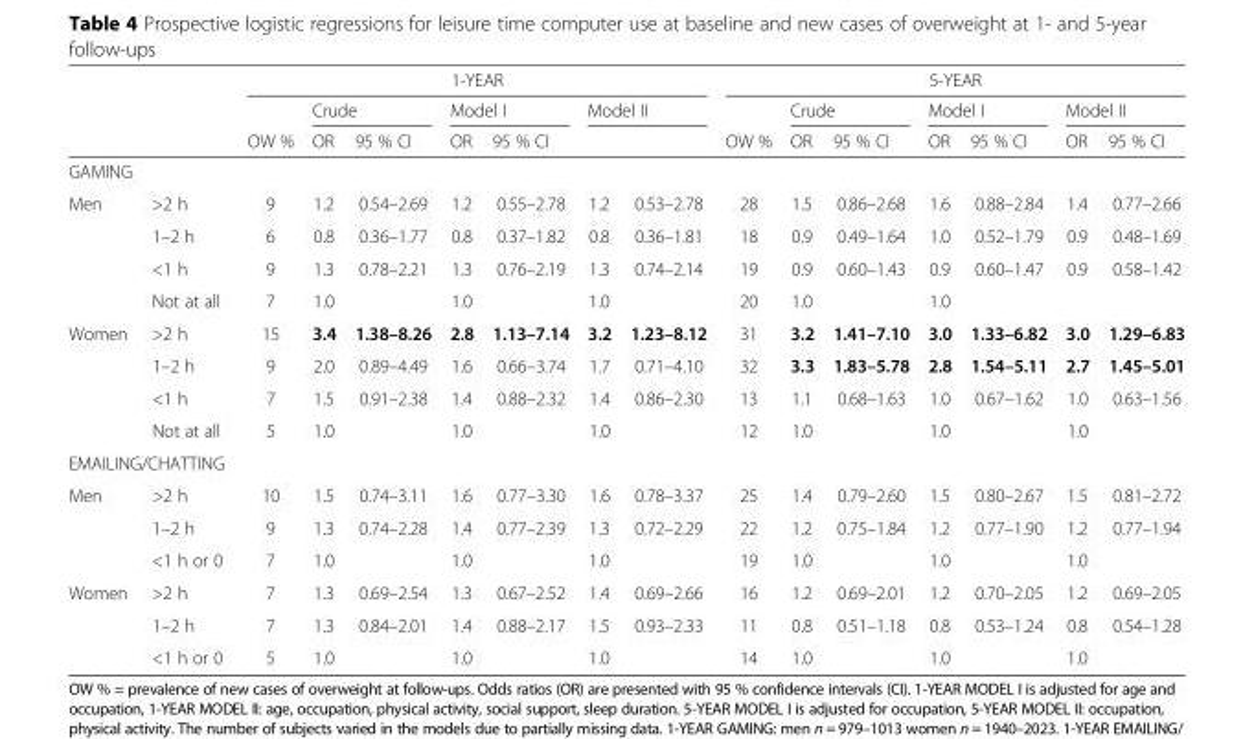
<table><thead><tr><td rowspan="3"></td><td rowspan="3"></td><td colspan="7">1-YEAR</td><td colspan="7">5-YEAR</td></tr><tr><td rowspan="2">OW %</td><td colspan="2">Crude</td><td colspan="2">Model I</td><td colspan="2">Model II</td><td rowspan="2">OW %</td><td colspan="2">Crude</td><td colspan="2">Model I</td><td colspan="2">Model II</td></tr><tr><td>OR</td><td>95 % CI</td><td>OR</td><td>95 % CI</td><td></td><td></td><td>OR</td><td>95 % CI</td><td>OR</td><td>95 % CI</td><td>OR</td><td>95 % CI</td></tr></thead><tbody><tr><td colspan="16">GAMING</td></tr><tr><td rowspan="4">Men</td><td>&gt;2 h</td><td>9</td><td>1.2</td><td>0.54–2.69</td><td>1.2</td><td>0.55–2.78</td><td>1.2</td><td>0.53–2.78</td><td>28</td><td>1.5</td><td>0.86–2.68</td><td>1.6</td><td>0.88–2.84</td><td>1.4</td><td>0.77–2.66</td></tr><tr><td>1–2 h</td><td>6</td><td>0.8</td><td>0.36–1.77</td><td>0.8</td><td>0.37–1.82</td><td>0.8</td><td>0.36–1.81</td><td>18</td><td>0.9</td><td>0.49–1.64</td><td>1.0</td><td>0.52–1.79</td><td>0.9</td><td>0.48–1.69</td></tr><tr><td>&lt;1 h</td><td>9</td><td>1.3</td><td>0.78–2.21</td><td>1.3</td><td>0.76–2.19</td><td>1.3</td><td>0.74–2.14</td><td>19</td><td>0.9</td><td>0.60–1.43</td><td>0.9</td><td>0.60–1.47</td><td>0.9</td><td>0.58–1.42</td></tr><tr><td>Not at all</td><td>7</td><td>1.0</td><td></td><td>1.0</td><td></td><td>1.0</td><td></td><td>20</td><td>1.0</td><td></td><td>1.0</td><td></td><td></td><td></td></tr><tr><td rowspan="4">Women</td><td>&gt;2 h</td><td>15</td><td>3.4</td><td>1.38–8.26</td><td>2.8</td><td>1.13–7.14</td><td>3.2</td><td>1.23–8.12</td><td>31</td><td>3.2</td><td>1.41–7.10</td><td>3.0</td><td>1.33–6.82</td><td>3.0</td><td>1.29–6.83</td></tr><tr><td>1–2 h</td><td>9</td><td>2.0</td><td>0.89–4.49</td><td>1.6</td><td>0.66–3.74</td><td>1.7</td><td>0.71–4.10</td><td>32</td><td>3.3</td><td>1.83–5.78</td><td>2.8</td><td>1.54–5.11</td><td>2.7</td><td>1.45–5.01</td></tr><tr><td>&lt;1 h</td><td>7</td><td>1.5</td><td>0.91–2.38</td><td>1.4</td><td>0.88–2.32</td><td>1.4</td><td>0.86–2.30</td><td>13</td><td>1.1</td><td>0.68–1.63</td><td>1.0</td><td>0.67–1.62</td><td>1.0</td><td>0.63–1.56</td></tr><tr><td>Not at all</td><td>5</td><td>1.0</td><td></td><td>1.0</td><td></td><td>1.0</td><td></td><td>12</td><td>1.0</td><td></td><td>1.0</td><td></td><td>1.0</td><td></td></tr><tr><td colspan="16">EMAILING/CHATTING</td></tr><tr><td rowspan="3">Men</td><td>&gt;2 h</td><td>10</td><td>1.5</td><td>0.74–3.11</td><td>1.6</td><td>0.77–3.30</td><td>1.6</td><td>0.78–3.37</td><td>25</td><td>1.4</td><td>0.79–2.60</td><td>1.5</td><td>0.80–2.67</td><td>1.5</td><td>0.81–2.72</td></tr><tr><td>1–2 h</td><td>9</td><td>1.3</td><td>0.74–2.28</td><td>1.4</td><td>0.77–2.39</td><td>1.3</td><td>0.72–2.29</td><td>22</td><td>1.2</td><td>0.75–1.84</td><td>1.2</td><td>0.77–1.90</td><td>1.2</td><td>0.77–1.94</td></tr><tr><td>&lt;1 h or 0</td><td>7</td><td>1.0</td><td></td><td>1.0</td><td></td><td>1.0</td><td></td><td>19</td><td>1.0</td><td></td><td>1.0</td><td></td><td>1.0</td><td></td></tr><tr><td rowspan="3">Women</td><td>&gt;2 h</td><td>7</td><td>1.3</td><td>0.69–2.54</td><td>1.3</td><td>0.67–2.52</td><td>1.4</td><td>0.69–2.66</td><td>16</td><td>1.2</td><td>0.69–2.01</td><td>1.2</td><td>0.70–2.05</td><td>1.2</td><td>0.69–2.05</td></tr><tr><td>1–2 h</td><td>7</td><td>1.3</td><td>0.84–2.01</td><td>1.4</td><td>0.88–2.17</td><td>1.5</td><td>0.93–2.33</td><td>11</td><td>0.8</td><td>0.51–1.18</td><td>0.8</td><td>0.53–1.24</td><td>0.8</td><td>0.54–1.28</td></tr><tr><td>&lt;1 h or 0</td><td>5</td><td>1.0</td><td></td><td>1.0</td><td></td><td>1.0</td><td></td><td>14</td><td>1.0</td><td></td><td>1.0</td><td></td><td>1.0</td><td></td></tr></tbody></table>